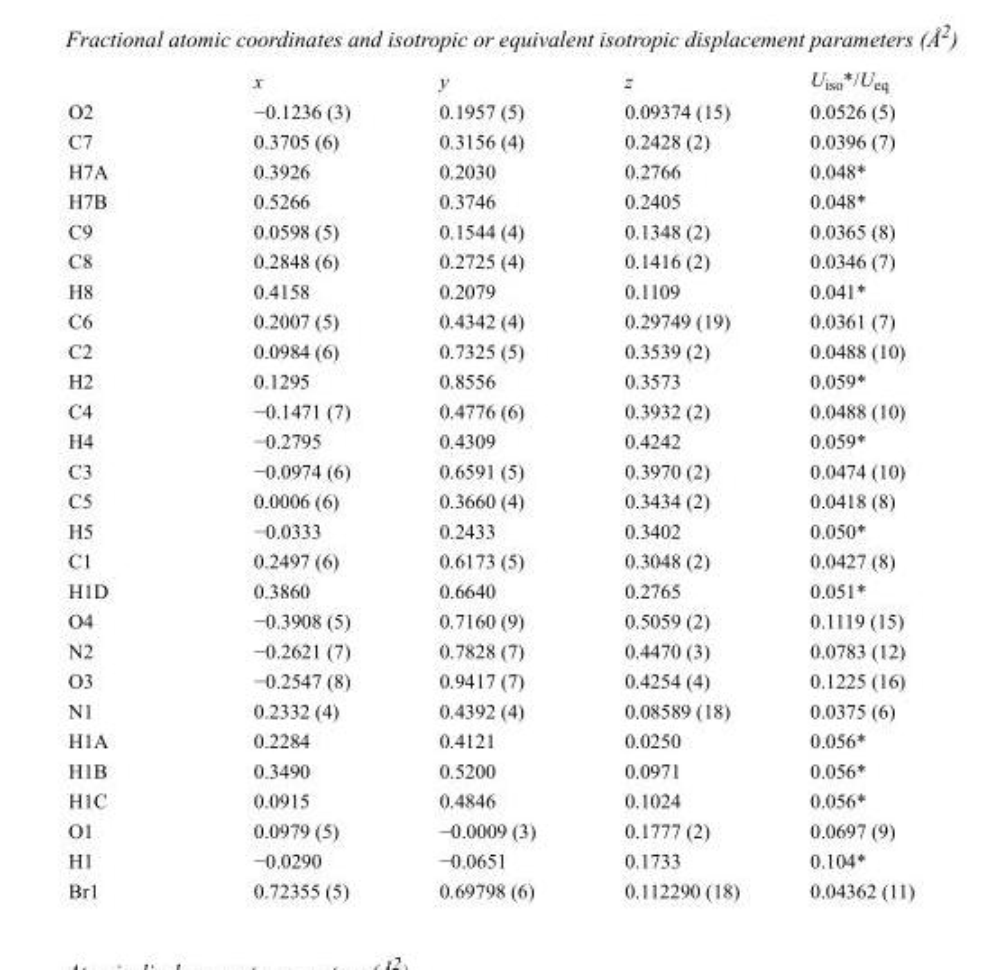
<table><thead><tr><td></td><td>x</td><td>y</td><td>z</td><td>U<sub>iso</sub>*/U<sub>eq</sub></td></tr></thead><tbody><tr><td>O2</td><td>−0.1236 (3)</td><td>0.1957 (5)</td><td>0.09374 (15)</td><td>0.0526 (5)</td></tr><tr><td>C7</td><td>0.3705 (6)</td><td>0.3156 (4)</td><td>0.2428 (2)</td><td>0.0396 (7)</td></tr><tr><td>H7A</td><td>0.3926</td><td>0.2030</td><td>0.2766</td><td>0.048*</td></tr><tr><td>H7B</td><td>0.5266</td><td>0.3746</td><td>0.2405</td><td>0.048*</td></tr><tr><td>C9</td><td>0.0598 (5)</td><td>0.1544 (4)</td><td>0.1348 (2)</td><td>0.0365 (8)</td></tr><tr><td>C8</td><td>0.2848 (6)</td><td>0.2725 (4)</td><td>0.1416 (2)</td><td>0.0346 (7)</td></tr><tr><td>H8</td><td>0.4158</td><td>0.2079</td><td>0.1109</td><td>0.041*</td></tr><tr><td>C6</td><td>0.2007 (5)</td><td>0.4342 (4)</td><td>0.29749 (19)</td><td>0.0361 (7)</td></tr><tr><td>C2</td><td>0.0984 (6)</td><td>0.7325 (5)</td><td>0.3539 (2)</td><td>0.0488 (10)</td></tr><tr><td>H2</td><td>0.1295</td><td>0.8556</td><td>0.3573</td><td>0.059*</td></tr><tr><td>C4</td><td>−0.1471 (7)</td><td>0.4776 (6)</td><td>0.3932 (2)</td><td>0.0488 (10)</td></tr><tr><td>H4</td><td>−0.2795</td><td>0.4309</td><td>0.4242</td><td>0.059*</td></tr><tr><td>C3</td><td>−0.0974 (6)</td><td>0.6591 (5)</td><td>0.3970 (2)</td><td>0.0474 (10)</td></tr><tr><td>C5</td><td>0.0006 (6)</td><td>0.3660 (4)</td><td>0.3434 (2)</td><td>0.0418 (8)</td></tr><tr><td>H5</td><td>−0.0333</td><td>0.2433</td><td>0.3402</td><td>0.050*</td></tr><tr><td>C1</td><td>0.2497 (6)</td><td>0.6173 (5)</td><td>0.3048 (2)</td><td>0.0427 (8)</td></tr><tr><td>H1D</td><td>0.3860</td><td>0.6640</td><td>0.2765</td><td>0.051*</td></tr><tr><td>O4</td><td>−0.3908 (5)</td><td>0.7160 (9)</td><td>0.5059 (2)</td><td>0.1119 (15)</td></tr><tr><td>N2</td><td>−0.2621 (7)</td><td>0.7828 (7)</td><td>0.4470 (3)</td><td>0.0783 (12)</td></tr><tr><td>O3</td><td>−0.2547 (8)</td><td>0.9417 (7)</td><td>0.4254 (4)</td><td>0.1225 (16)</td></tr><tr><td>N1</td><td>0.2332 (4)</td><td>0.4392 (4)</td><td>0.08589 (18)</td><td>0.0375 (6)</td></tr><tr><td>H1A</td><td>0.2284</td><td>0.4121</td><td>0.0250</td><td>0.056*</td></tr><tr><td>H1B</td><td>0.3490</td><td>0.5200</td><td>0.0971</td><td>0.056*</td></tr><tr><td>H1C</td><td>0.0915</td><td>0.4846</td><td>0.1024</td><td>0.056*</td></tr><tr><td>O1</td><td>0.0979 (5)</td><td>−0.0009 (3)</td><td>0.1777 (2)</td><td>0.0697 (9)</td></tr><tr><td>H1</td><td>−0.0290</td><td>−0.0651</td><td>0.1733</td><td>0.104*</td></tr><tr><td>Br1</td><td>0.72355 (5)</td><td>0.69798 (6)</td><td>0.112290 (18)</td><td>0.04362 (11)</td></tr></tbody></table>